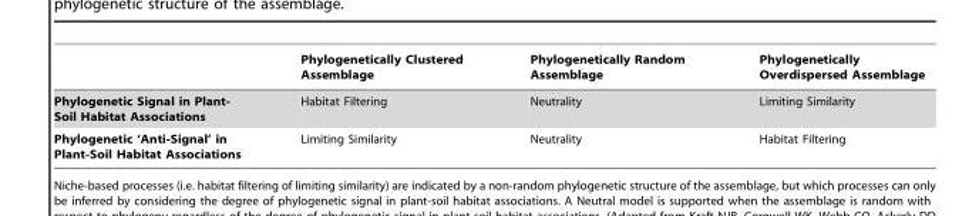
<table><thead><tr><td></td><td>Phylogenetically Clustered Assemblage</td><td>Phylogenetically Random Assemblage</td><td>Phylogenetically Overdispersed Assemblage</td></tr></thead><tbody><tr><td>Phylogenetic Signal in Plant- Soil Habitat Associations</td><td>Habitat Filtering</td><td>Neutrality</td><td>Limiting Similarity</td></tr><tr><td>Phylogenetic ‘Anti-Signal’ in Plant-Soil Habitat Associations</td><td>Limiting Similarity</td><td>Neutrality</td><td>Habitat Filtering</td></tr></tbody></table>